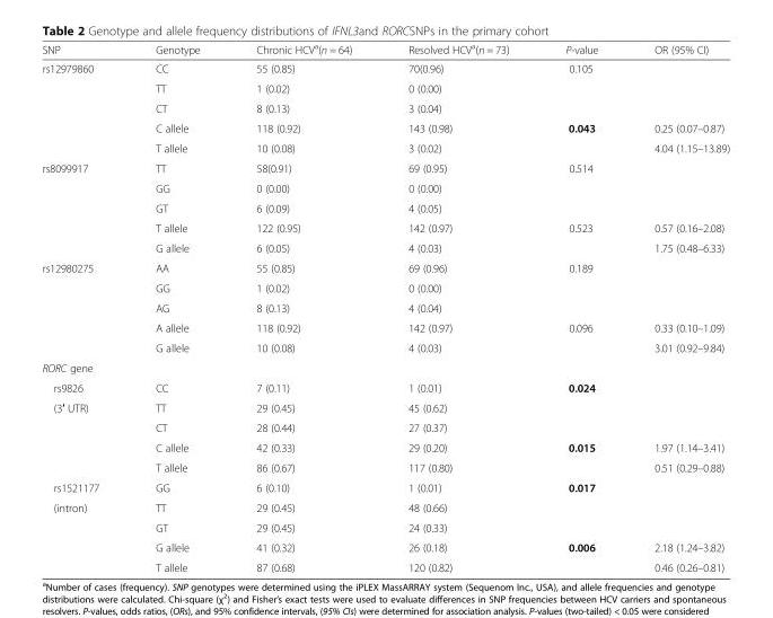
<table><thead><tr><td>SNP</td><td>Genotype</td><td>Chronic HCV<sup>a</sup>(n = 64)</td><td>Resolved HCV<sup>a</sup>(n = 73)</td><td>P-value</td><td>OR (95% CI)</td></tr></thead><tbody><tr><td rowspan="5">rs12979860</td><td>CC</td><td>55 (0.85)</td><td>70(0.96)</td><td rowspan="3">0.105</td><td rowspan="3"></td></tr><tr><td>TT</td><td>1 (0.02)</td><td>0 (0.00)</td></tr><tr><td>CT</td><td>8 (0.13)</td><td>3 (0.04)</td></tr><tr><td>C allele</td><td>118 (0.92)</td><td>143 (0.98)</td><td rowspan="2">0.043</td><td>0.25 (0.07–0.87)</td></tr><tr><td>T allele</td><td>10 (0.08)</td><td>3 (0.02)</td><td>4.04 (1.15–13.89)</td></tr><tr><td rowspan="5">rs8099917</td><td>TT</td><td>58(0.91)</td><td>69 (0.95)</td><td rowspan="3">0.514</td><td rowspan="3"></td></tr><tr><td>GG</td><td>0 (0.00)</td><td>0 (0.00)</td></tr><tr><td>GT</td><td>6 (0.09)</td><td>4 (0.05)</td></tr><tr><td>T allele</td><td>122 (0.95)</td><td>142 (0.97)</td><td rowspan="2">0.523</td><td>0.57 (0.16–2.08)</td></tr><tr><td>G allele</td><td>6 (0.05)</td><td>4 (0.03)</td><td>1.75 (0.48–6.33)</td></tr><tr><td rowspan="5">rs12980275</td><td>AA</td><td>55 (0.85)</td><td>69 (0.96)</td><td rowspan="3">0.189</td><td rowspan="3"></td></tr><tr><td>GG</td><td>1 (0.02)</td><td>0 (0.00)</td></tr><tr><td>AG</td><td>8 (0.13)</td><td>4 (0.04)</td></tr><tr><td>A allele</td><td>118 (0.92)</td><td>142 (0.97)</td><td rowspan="2">0.096</td><td>0.33 (0.10–1.09)</td></tr><tr><td>G allele</td><td>10 (0.08)</td><td>4 (0.03)</td><td>3.01 (0.92–9.84)</td></tr><tr><td colspan="6">RORC gene</td></tr><tr><td>rs9826</td><td>CC</td><td>7 (0.11)</td><td>1 (0.01)</td><td rowspan="3">0.024</td><td rowspan="3"></td></tr><tr><td rowspan="4">(3′ UTR)</td><td>TT</td><td>29 (0.45)</td><td>45 (0.62)</td></tr><tr><td>CT</td><td>28 (0.44)</td><td>27 (0.37)</td></tr><tr><td>C allele</td><td>42 (0.33)</td><td>29 (0.20)</td><td rowspan="2">0.015</td><td>1.97 (1.14–3.41)</td></tr><tr><td>T allele</td><td>86 (0.67)</td><td>117 (0.80)</td><td>0.51 (0.29–0.88)</td></tr><tr><td>rs1521177</td><td>GG</td><td>6 (0.10)</td><td>1 (0.01)</td><td rowspan="3">0.017</td><td rowspan="3"></td></tr><tr><td rowspan="4">(intron)</td><td>TT</td><td>29 (0.45)</td><td>48 (0.66)</td></tr><tr><td>GT</td><td>29 (0.45)</td><td>24 (0.33)</td></tr><tr><td>G allele</td><td>41 (0.32)</td><td>26 (0.18)</td><td rowspan="2">0.006</td><td>2.18 (1.24–3.82)</td></tr><tr><td>T allele</td><td>87 (0.68)</td><td>120 (0.82)</td><td>0.46 (0.26–0.81)</td></tr></tbody></table>